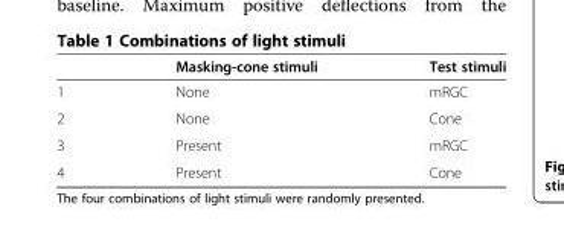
<table><thead><tr><td></td><td>Masking-cone stimuli</td><td>Test stimuli</td></tr></thead><tbody><tr><td>1</td><td>None</td><td>mRGC</td></tr><tr><td>2</td><td>None</td><td>Cone</td></tr><tr><td>3</td><td>Present</td><td>mRGC</td></tr><tr><td>4</td><td>Present</td><td>Cone</td></tr></tbody></table>